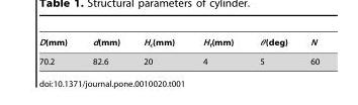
<table><thead><tr><td>D(mm)</td><td>d(mm)</td><td>H<sub>c</sub>(mm)</td><td>H<sub>t</sub>(mm)</td><td>θ(deg)</td><td>N</td></tr></thead><tbody><tr><td>70.2</td><td>82.6</td><td>20</td><td>4</td><td>5</td><td>60</td></tr></tbody></table>